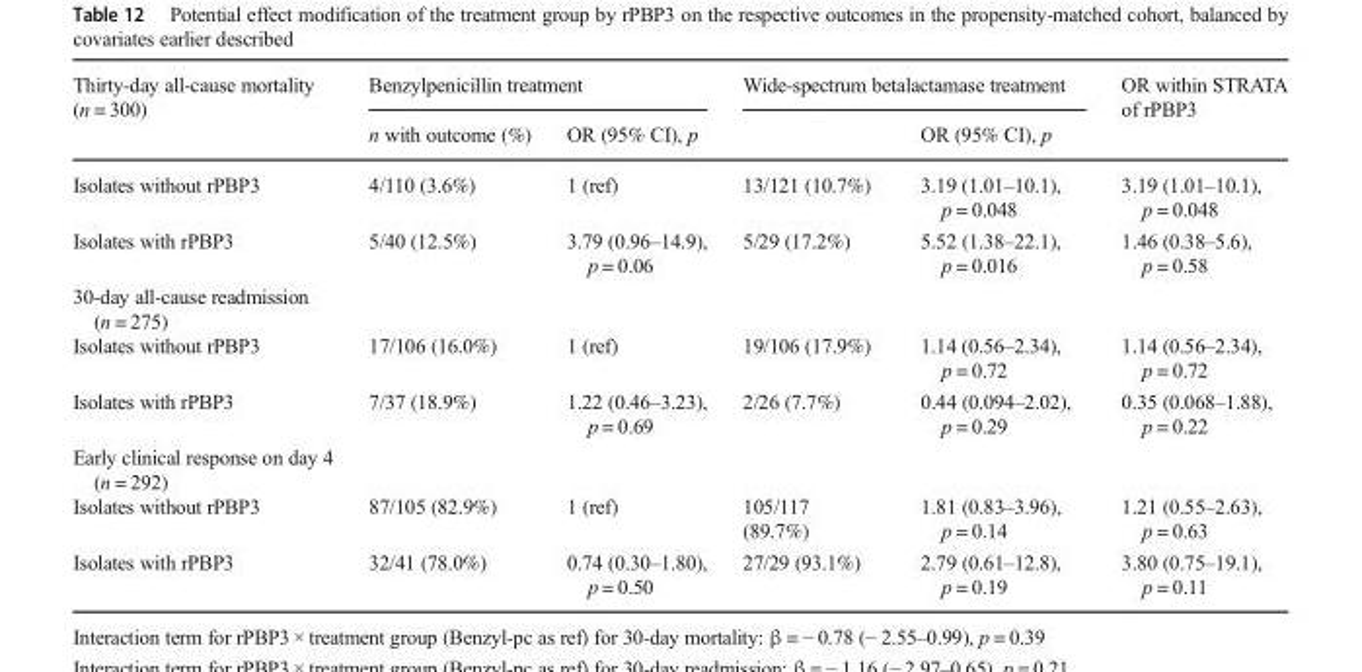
<table><thead><tr><td rowspan="2">Thirty-day all-cause mortality (n = 300)</td><td colspan="2">Benzylpenicillin treatment</td><td colspan="2">Wide-spectrum betalactamase treatment</td><td rowspan="2">OR within STRATA of rPBP3</td></tr><tr><td>n with outcome (%)</td><td>OR (95% CI), p</td><td></td><td>OR (95% CI), p</td></tr></thead><tbody><tr><td>Isolates without rPBP3</td><td>4/110 (3.6%)</td><td>1 (ref)</td><td>13/121 (10.7%)</td><td>3.19 (1.01–10.1), p = 0.048</td><td>3.19 (1.01–10.1), p = 0.048</td></tr><tr><td>Isolates with rPBP3</td><td>5/40 (12.5%)</td><td>3.79 (0.96–14.9), p = 0.06</td><td>5/29 (17.2%)</td><td>5.52 (1.38–22.1), p = 0.016</td><td>1.46 (0.38–5.6), p = 0.58</td></tr><tr><td colspan="6">30-day all-cause readmission (n = 275)</td></tr><tr><td>Isolates without rPBP3</td><td>17/106 (16.0%)</td><td>1 (ref)</td><td>19/106 (17.9%)</td><td>1.14 (0.56–2.34), p = 0.72</td><td>1.14 (0.56–2.34), p = 0.72</td></tr><tr><td>Isolates with rPBP3</td><td>7/37 (18.9%)</td><td>1.22 (0.46–3.23), p = 0.69</td><td>2/26 (7.7%)</td><td>0.44 (0.094–2.02), p = 0.29</td><td>0.35 (0.068–1.88), p = 0.22</td></tr><tr><td colspan="6">Early clinical response on day 4 (n = 292)</td></tr><tr><td>Isolates without rPBP3</td><td>87/105 (82.9%)</td><td>1 (ref)</td><td>105/117 (89.7%)</td><td>1.81 (0.83–3.96), p = 0.14</td><td>1.21 (0.55–2.63), p = 0.63</td></tr><tr><td>Isolates with rPBP3</td><td>32/41 (78.0%)</td><td>0.74 (0.30–1.80), p = 0.50</td><td>27/29 (93.1%)</td><td>2.79 (0.61–12.8), p = 0.19</td><td>3.80 (0.75–19.1), p = 0.11</td></tr></tbody></table>